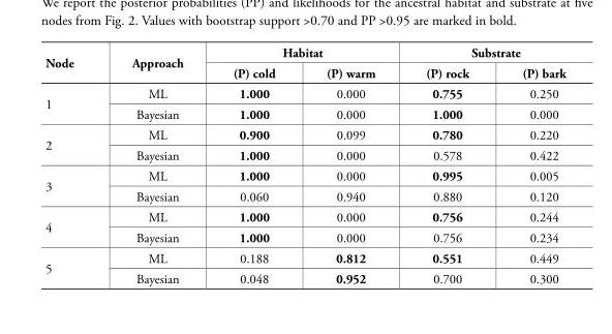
<table><tbody><tr><td rowspan="2">Node</td><td rowspan="2">Approach</td><td colspan="2">Habitat</td><td colspan="2">Substrate</td></tr><tr><td>(P) cold</td><td>(P) warm</td><td>(P) rock</td><td>(P) bark</td></tr><tr><td rowspan="2">1</td><td>ML</td><td>1.000</td><td>0.000</td><td>0.755</td><td>0.250</td></tr><tr><td>Bayesian</td><td>1.000</td><td>0.000</td><td>1.000</td><td>0.000</td></tr><tr><td rowspan="2">2</td><td>ML</td><td>0.900</td><td>0.099</td><td>0.780</td><td>0.220</td></tr><tr><td>Bayesian</td><td>1.000</td><td>0.000</td><td>0.578</td><td>0.422</td></tr><tr><td rowspan="2">3</td><td>ML</td><td>1.000</td><td>0.000</td><td>0.995</td><td>0.005</td></tr><tr><td>Bayesian</td><td>0.060</td><td>0.940</td><td>0.880</td><td>0.120</td></tr><tr><td rowspan="2">4</td><td>ML</td><td>1.000</td><td>0.000</td><td>0.756</td><td>0.244</td></tr><tr><td>Bayesian</td><td>1.000</td><td>0.000</td><td>0.756</td><td>0.234</td></tr><tr><td rowspan="2">5</td><td>ML</td><td>0.188</td><td>0.812</td><td>0.551</td><td>0.449</td></tr><tr><td>Bayesian</td><td>0.048</td><td>0.952</td><td>0.700</td><td>0.300</td></tr></tbody></table>